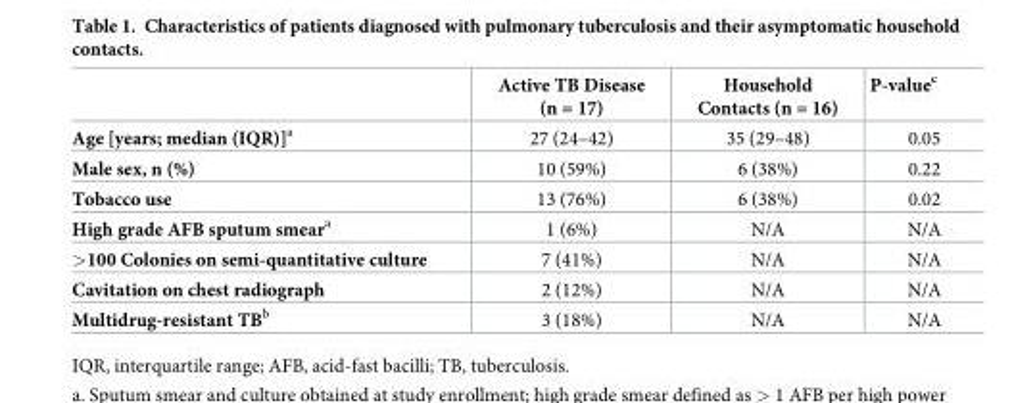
<table><thead><tr><td></td><td>Active TB Disease (n = 17)</td><td>Household Contacts (n = 16)</td><td>P-value<sup>c</sup></td></tr></thead><tbody><tr><td>Age [years; median (IQR)]<sup>a</sup></td><td>27 (24–42)</td><td>35 (29–48)</td><td>0.05</td></tr><tr><td>Male sex, n (%)</td><td>10 (59%)</td><td>6 (38%)</td><td>0.22</td></tr><tr><td>Tobacco use</td><td>13 (76%)</td><td>6 (38%)</td><td>0.02</td></tr><tr><td>High grade AFB sputum smear<sup>a</sup></td><td>1 (6%)</td><td>N/A</td><td>N/A</td></tr><tr><td>&gt;100 Colonies on semi-quantitative culture</td><td>7 (41%)</td><td>N/A</td><td>N/A</td></tr><tr><td>Cavitation on chest radiograph</td><td>2 (12%)</td><td>N/A</td><td>N/A</td></tr><tr><td>Multidrug-resistant TB<sup>b</sup></td><td>3 (18%)</td><td>N/A</td><td>N/A</td></tr></tbody></table>